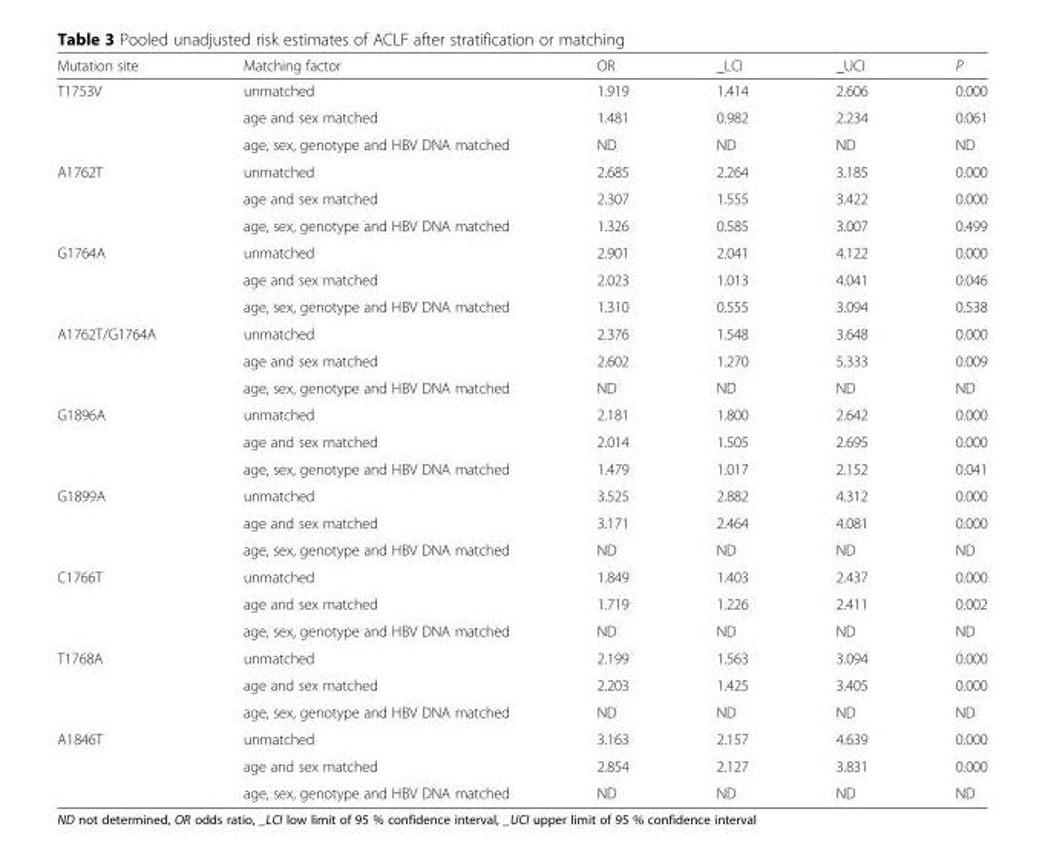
<table><thead><tr><td>Mutation site</td><td>Matching factor</td><td>OR</td><td>_LCI</td><td>_UCI</td><td>P</td></tr></thead><tbody><tr><td rowspan="3">T1753V</td><td>unmatched</td><td>1.919</td><td>1.414</td><td>2.606</td><td>0.000</td></tr><tr><td>age and sex matched</td><td>1.481</td><td>0.982</td><td>2.234</td><td>0.061</td></tr><tr><td>age, sex, genotype and HBV DNA matched</td><td>ND</td><td>ND</td><td>ND</td><td>ND</td></tr><tr><td rowspan="3">A1762T</td><td>unmatched</td><td>2.685</td><td>2.264</td><td>3.185</td><td>0.000</td></tr><tr><td>age and sex matched</td><td>2.307</td><td>1.555</td><td>3.422</td><td>0.000</td></tr><tr><td>age, sex, genotype and HBV DNA matched</td><td>1.326</td><td>0.585</td><td>3.007</td><td>0.499</td></tr><tr><td rowspan="3">G1764A</td><td>unmatched</td><td>2.901</td><td>2.041</td><td>4.122</td><td>0.000</td></tr><tr><td>age and sex matched</td><td>2.023</td><td>1.013</td><td>4.041</td><td>0.046</td></tr><tr><td>age, sex, genotype and HBV DNA matched</td><td>1.310</td><td>0.555</td><td>3.094</td><td>0.538</td></tr><tr><td rowspan="3">A1762T/G1764A</td><td>unmatched</td><td>2.376</td><td>1.548</td><td>3.648</td><td>0.000</td></tr><tr><td>age and sex matched</td><td>2.602</td><td>1.270</td><td>5.333</td><td>0.009</td></tr><tr><td>age, sex, genotype and HBV DNA matched</td><td>ND</td><td>ND</td><td>ND</td><td>ND</td></tr><tr><td rowspan="3">G1896A</td><td>unmatched</td><td>2.181</td><td>1.800</td><td>2.642</td><td>0.000</td></tr><tr><td>age and sex matched</td><td>2.014</td><td>1.505</td><td>2.695</td><td>0.000</td></tr><tr><td>age, sex, genotype and HBV DNA matched</td><td>1.479</td><td>1.017</td><td>2.152</td><td>0.041</td></tr><tr><td rowspan="3">G1899A</td><td>unmatched</td><td>3.525</td><td>2.882</td><td>4.312</td><td>0.000</td></tr><tr><td>age and sex matched</td><td>3.171</td><td>2.464</td><td>4.081</td><td>0.000</td></tr><tr><td>age, sex, genotype and HBV DNA matched</td><td>ND</td><td>ND</td><td>ND</td><td>ND</td></tr><tr><td rowspan="3">C1766T</td><td>unmatched</td><td>1.849</td><td>1.403</td><td>2.437</td><td>0.000</td></tr><tr><td>age and sex matched</td><td>1.719</td><td>1.226</td><td>2.411</td><td>0.002</td></tr><tr><td>age, sex, genotype and HBV DNA matched</td><td>ND</td><td>ND</td><td>ND</td><td>ND</td></tr><tr><td rowspan="3">T1768A</td><td>unmatched</td><td>2.199</td><td>1.563</td><td>3.094</td><td>0.000</td></tr><tr><td>age and sex matched</td><td>2.203</td><td>1.425</td><td>3.405</td><td>0.000</td></tr><tr><td>age, sex, genotype and HBV DNA matched</td><td>ND</td><td>ND</td><td>ND</td><td>ND</td></tr><tr><td rowspan="3">A1846T</td><td>unmatched</td><td>3.163</td><td>2.157</td><td>4.639</td><td>0.000</td></tr><tr><td>age and sex matched</td><td>2.854</td><td>2.127</td><td>3.831</td><td>0.000</td></tr><tr><td>age, sex, genotype and HBV DNA matched</td><td>ND</td><td>ND</td><td>ND</td><td>ND</td></tr></tbody></table>